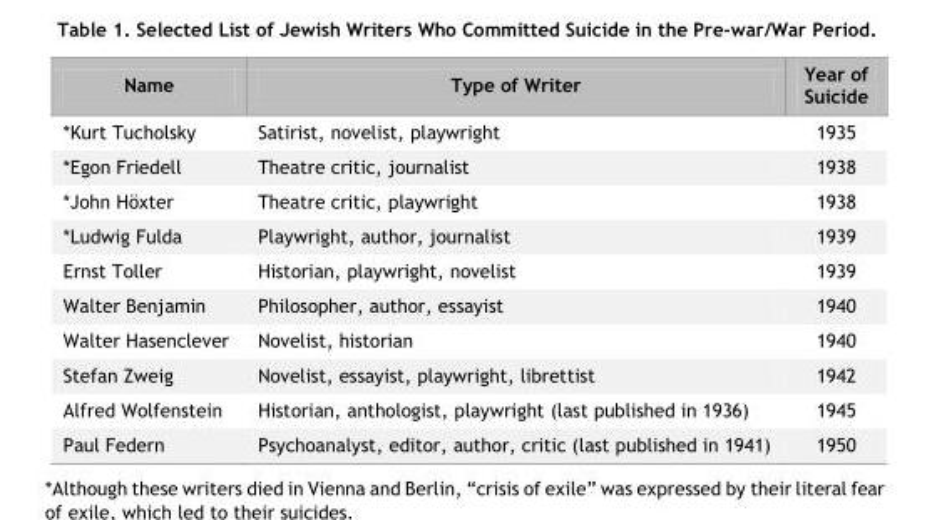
<table><thead><tr><td>Name</td><td>Type of Writer</td><td>Year of Suicide</td></tr></thead><tbody><tr><td>*Kurt Tucholsky</td><td>Satirist, novelist, playwright</td><td>1935</td></tr><tr><td>*Egon Friedell</td><td>Theatre critic, journalist</td><td>1938</td></tr><tr><td>*John Höxter</td><td>Theatre critic, playwright</td><td>1938</td></tr><tr><td>*Ludwig Fulda</td><td>Playwright, author, journalist</td><td>1939</td></tr><tr><td>Ernst Toller</td><td>Historian, playwright, novelist</td><td>1939</td></tr><tr><td>Walter Benjamin</td><td>Philosopher, author, essayist</td><td>1940</td></tr><tr><td>Walter Hasenclever</td><td>Novelist, historian</td><td>1940</td></tr><tr><td>Stefan Zweig</td><td>Novelist, essayist, playwright, librettist</td><td>1942</td></tr><tr><td>Alfred Wolfenstein</td><td>Historian, anthologist, playwright (last published in 1936)</td><td>1945</td></tr><tr><td>Paul Federn</td><td>Psychoanalyst, editor, author, critic (last published in 1941)</td><td>1950</td></tr></tbody></table>